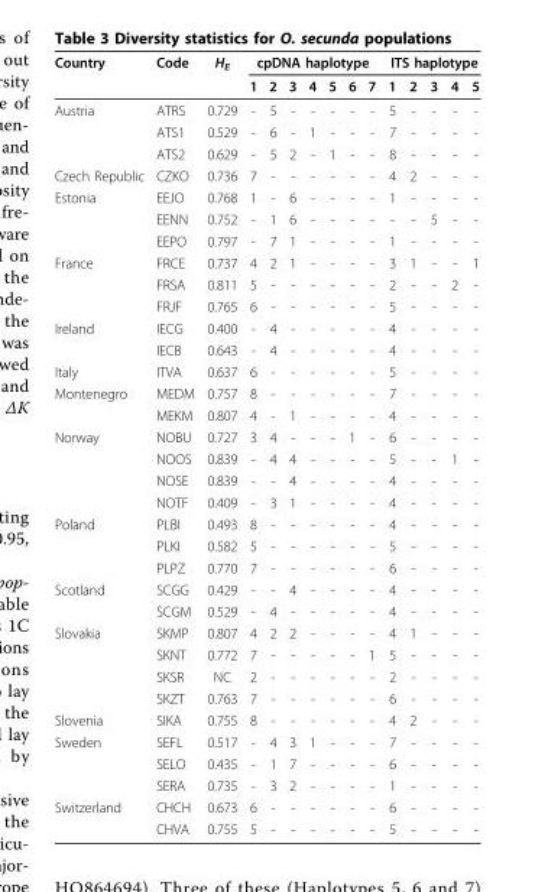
<table><thead><tr><td rowspan="2">Country</td><td rowspan="2">Code</td><td rowspan="2">H<sub>E</sub></td><td colspan="7">cpDNA haplotype</td><td colspan="5">ITS haplotype</td></tr><tr><td>1</td><td>2</td><td>3</td><td>4</td><td>5</td><td>6</td><td>7</td><td>1</td><td>2</td><td>3</td><td>4</td><td>5</td></tr></thead><tbody><tr><td rowspan="3">Austria</td><td>ATRS</td><td>0.729</td><td>-</td><td>5</td><td>-</td><td>-</td><td>-</td><td>-</td><td>-</td><td>5</td><td>-</td><td>-</td><td>-</td><td>-</td></tr><tr><td>ATS1</td><td>0.529</td><td>-</td><td>6</td><td>-</td><td>1</td><td>-</td><td>-</td><td>-</td><td>7</td><td>-</td><td>-</td><td>-</td><td>-</td></tr><tr><td>ATS2</td><td>0.629</td><td>-</td><td>5</td><td>2</td><td>-</td><td>1</td><td>-</td><td>-</td><td>8</td><td>-</td><td>-</td><td>-</td><td>-</td></tr><tr><td>Czech Republic</td><td>CZKO</td><td>0.736</td><td>7</td><td>-</td><td>-</td><td>-</td><td>-</td><td>-</td><td>-</td><td>4</td><td>2</td><td>-</td><td>-</td><td>-</td></tr><tr><td rowspan="3">Estonia</td><td>EEJO</td><td>0.768</td><td>1</td><td>-</td><td>6</td><td>-</td><td>-</td><td>-</td><td>-</td><td>1</td><td>-</td><td>-</td><td>-</td><td>-</td></tr><tr><td>EENN</td><td>0.752</td><td>-</td><td>1</td><td>6</td><td>-</td><td>-</td><td>-</td><td>-</td><td>-</td><td>-</td><td>5</td><td>-</td><td>-</td></tr><tr><td>EEPO</td><td>0.797</td><td>-</td><td>7</td><td>1</td><td>-</td><td>-</td><td>-</td><td>-</td><td>1</td><td>-</td><td>-</td><td>-</td><td>-</td></tr><tr><td rowspan="3">France</td><td>FRCE</td><td>0.737</td><td>4</td><td>2</td><td>1</td><td>-</td><td>-</td><td>-</td><td>-</td><td>3</td><td>1</td><td>-</td><td>-</td><td>1</td></tr><tr><td>FRSA</td><td>0.811</td><td>5</td><td>-</td><td>-</td><td>-</td><td>-</td><td>-</td><td>-</td><td>2</td><td>-</td><td>-</td><td>2</td><td>-</td></tr><tr><td>FRJF</td><td>0.765</td><td>6</td><td>-</td><td>-</td><td>-</td><td>-</td><td>-</td><td>-</td><td>5</td><td>-</td><td>-</td><td>-</td><td>-</td></tr><tr><td rowspan="2">Ireland</td><td>IECG</td><td>0.400</td><td>-</td><td>4</td><td>-</td><td>-</td><td>-</td><td>-</td><td>-</td><td>4</td><td>-</td><td>-</td><td>-</td><td>-</td></tr><tr><td>IECB</td><td>0.643</td><td>-</td><td>4</td><td>-</td><td>-</td><td>-</td><td>-</td><td>-</td><td>4</td><td>-</td><td>-</td><td>-</td><td>-</td></tr><tr><td>Italy</td><td>ITVA</td><td>0.637</td><td>6</td><td>-</td><td>-</td><td>-</td><td>-</td><td>-</td><td>-</td><td>5</td><td>-</td><td>-</td><td>-</td><td>-</td></tr><tr><td rowspan="2">Montenegro</td><td>MEDM</td><td>0.757</td><td>8</td><td>-</td><td>-</td><td>-</td><td>-</td><td>-</td><td>-</td><td>7</td><td>-</td><td>-</td><td>-</td><td>-</td></tr><tr><td>MEKM</td><td>0.807</td><td>4</td><td>-</td><td>1</td><td>-</td><td>-</td><td>-</td><td>-</td><td>4</td><td>-</td><td>-</td><td>-</td><td>-</td></tr><tr><td rowspan="4">Norway</td><td>NOBU</td><td>0.727</td><td>3</td><td>4</td><td>-</td><td>-</td><td>-</td><td>1</td><td>-</td><td>6</td><td>-</td><td>-</td><td>-</td><td>-</td></tr><tr><td>NOOS</td><td>0.839</td><td>-</td><td>4</td><td>4</td><td>-</td><td>-</td><td>-</td><td>-</td><td>5</td><td>-</td><td>-</td><td>1</td><td>-</td></tr><tr><td>NOSE</td><td>0.839</td><td>-</td><td>-</td><td>4</td><td>-</td><td>-</td><td>-</td><td>-</td><td>4</td><td>-</td><td>-</td><td>-</td><td>-</td></tr><tr><td>NOTF</td><td>0.409</td><td>-</td><td>3</td><td>1</td><td>-</td><td>-</td><td>-</td><td>-</td><td>4</td><td>-</td><td>-</td><td>-</td><td>-</td></tr><tr><td rowspan="3">Poland</td><td>PLBI</td><td>0.493</td><td>8</td><td>-</td><td>-</td><td>-</td><td>-</td><td>-</td><td>-</td><td>4</td><td>-</td><td>-</td><td>-</td><td>-</td></tr><tr><td>PLKI</td><td>0.582</td><td>5</td><td>-</td><td>-</td><td>-</td><td>-</td><td>-</td><td>-</td><td>5</td><td>-</td><td>-</td><td>-</td><td>-</td></tr><tr><td>PLPZ</td><td>0.770</td><td>7</td><td>-</td><td>-</td><td>-</td><td>-</td><td>-</td><td>-</td><td>6</td><td>-</td><td>-</td><td>-</td><td>-</td></tr><tr><td rowspan="2">Scotland</td><td>SCGG</td><td>0.429</td><td>-</td><td>-</td><td>4</td><td>-</td><td>-</td><td>-</td><td>-</td><td>4</td><td>-</td><td>-</td><td>-</td><td>-</td></tr><tr><td>SCGM</td><td>0.529</td><td>-</td><td>4</td><td>-</td><td>-</td><td>-</td><td>-</td><td>-</td><td>4</td><td>-</td><td>-</td><td>-</td><td>-</td></tr><tr><td rowspan="4">Slovakia</td><td>SKMP</td><td>0.807</td><td>4</td><td>2</td><td>2</td><td>-</td><td>-</td><td>-</td><td>-</td><td>4</td><td>1</td><td>-</td><td>-</td><td>-</td></tr><tr><td>SKNT</td><td>0.772</td><td>7</td><td>-</td><td>-</td><td>-</td><td>-</td><td>-</td><td>1</td><td>5</td><td>-</td><td>-</td><td>-</td><td>-</td></tr><tr><td>SKSR</td><td>NC</td><td>2</td><td>-</td><td>-</td><td>-</td><td>-</td><td>-</td><td>-</td><td>2</td><td>-</td><td>-</td><td>-</td><td>-</td></tr><tr><td>SKZT</td><td>0.763</td><td>7</td><td>-</td><td>-</td><td>-</td><td>-</td><td>-</td><td>-</td><td>6</td><td>-</td><td>-</td><td>-</td><td>-</td></tr><tr><td>Slovenia</td><td>SIKA</td><td>0.755</td><td>8</td><td>-</td><td>-</td><td>-</td><td>-</td><td>-</td><td>-</td><td>4</td><td>2</td><td>-</td><td>-</td><td>-</td></tr><tr><td rowspan="3">Sweden</td><td>SEFL</td><td>0.517</td><td>-</td><td>4</td><td>3</td><td>1</td><td>-</td><td>-</td><td>-</td><td>7</td><td>-</td><td>-</td><td>-</td><td>-</td></tr><tr><td>SELO</td><td>0.435</td><td>-</td><td>1</td><td>7</td><td>-</td><td>-</td><td>-</td><td>-</td><td>6</td><td>-</td><td>-</td><td>-</td><td>-</td></tr><tr><td>SERA</td><td>0.735</td><td>-</td><td>3</td><td>2</td><td>-</td><td>-</td><td>-</td><td>-</td><td>1</td><td>-</td><td>-</td><td>-</td><td>-</td></tr><tr><td rowspan="2">Switzerland</td><td>CHCH</td><td>0.673</td><td>6</td><td>-</td><td>-</td><td>-</td><td>-</td><td>-</td><td>-</td><td>6</td><td>-</td><td>-</td><td>-</td><td>-</td></tr><tr><td>CHVA</td><td>0.755</td><td>5</td><td>-</td><td>-</td><td>-</td><td>-</td><td>-</td><td>-</td><td>5</td><td>-</td><td>-</td><td>-</td><td>-</td></tr></tbody></table>